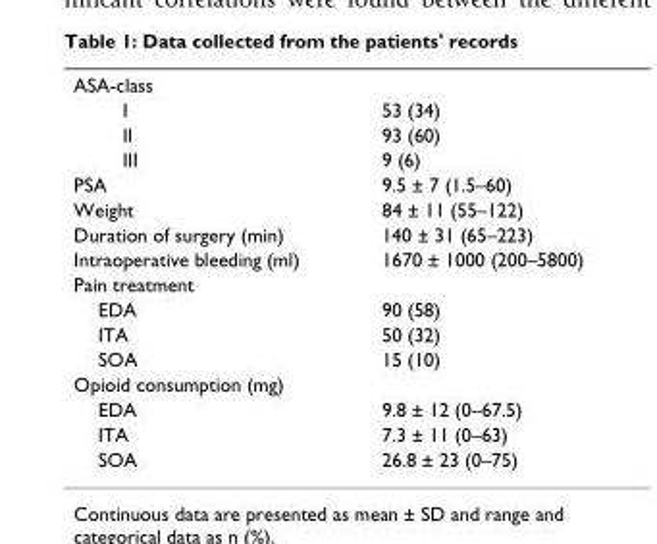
<table><tbody><tr><td colspan="2">ASA-class</td></tr><tr><td>I</td><td>53 (34)</td></tr><tr><td>II</td><td>93 (60)</td></tr><tr><td>III</td><td>9 (6)</td></tr><tr><td>PSA</td><td>9.5 ± 7 (1.5–60)</td></tr><tr><td>Weight</td><td>84 ± 11 (55–122)</td></tr><tr><td>Duration of surgery (min)</td><td>140 ± 31 (65–223)</td></tr><tr><td>Intraoperative bleeding (ml)</td><td>1670 ± 1000 (200–5800)</td></tr><tr><td colspan="2">Pain treatment</td></tr><tr><td>EDA</td><td>90 (58)</td></tr><tr><td>ITA</td><td>50 (32)</td></tr><tr><td>SOA</td><td>15 (10)</td></tr><tr><td colspan="2">Opioid consumption (mg)</td></tr><tr><td>EDA</td><td>9.8 ± 12 (0–67.5)</td></tr><tr><td>ITA</td><td>7.3 ± 11 (0–63)</td></tr><tr><td>SOA</td><td>26.8 ± 23 (0–75)</td></tr></tbody></table>